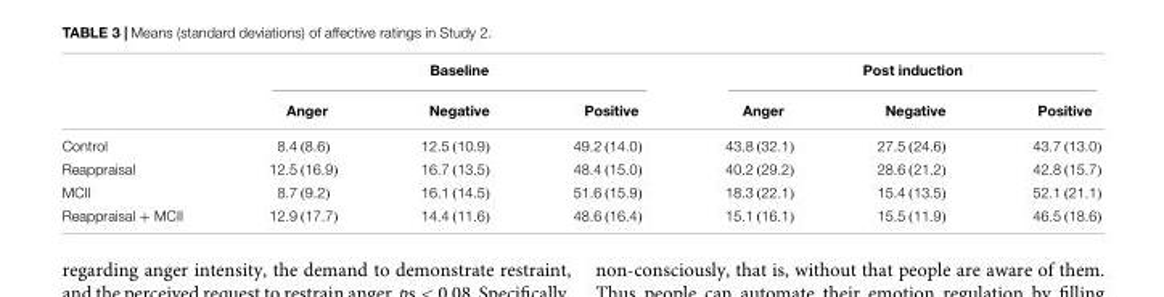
<table><thead><tr><td rowspan="2"></td><td colspan="3">Baseline</td><td colspan="3">Post induction</td></tr><tr><td>Anger</td><td>Negative</td><td>Positive</td><td>Anger</td><td>Negative</td><td>Positive</td></tr></thead><tbody><tr><td>Control</td><td>8.4 (8.6)</td><td>12.5 (10.9)</td><td>49.2 (14.0)</td><td>43.8 (32.1)</td><td>27.5 (24.6)</td><td>43.7 (13.0)</td></tr><tr><td>Reappraisal</td><td>12.5 (16.9)</td><td>16.7 (13.5)</td><td>48.4 (15.0)</td><td>40.2 (29.2)</td><td>28.6 (21.2)</td><td>42.8 (15.7)</td></tr><tr><td>MCII</td><td>8.7 (9.2)</td><td>16.1 (14.5)</td><td>51.6 (15.9)</td><td>18.3 (22.1)</td><td>15.4 (13.5)</td><td>52.1 (21.1)</td></tr><tr><td>Reappraisal + MCII</td><td>12.9 (17.7)</td><td>14.4 (11.6)</td><td>48.6 (16.4)</td><td>15.1 (16.1)</td><td>15.5 (11.9)</td><td>46.5 (18.6)</td></tr></tbody></table>